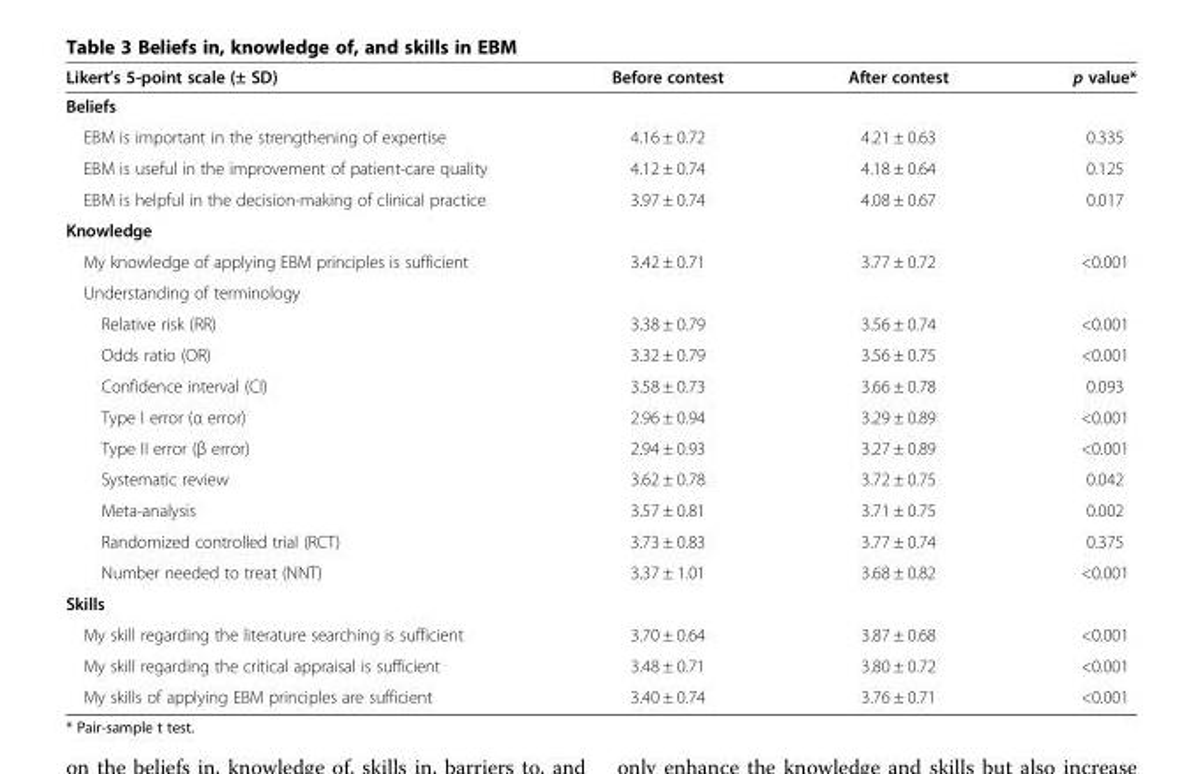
<table><thead><tr><td>Likert’s 5-point scale (± SD)</td><td>Before contest</td><td>After contest</td><td>p value*</td></tr></thead><tbody><tr><td colspan="4">Beliefs</td></tr><tr><td>EBM is important in the strengthening of expertise</td><td>4.16 ± 0.72</td><td>4.21 ± 0.63</td><td>0.335</td></tr><tr><td>EBM is useful in the improvement of patient-care quality</td><td>4.12 ± 0.74</td><td>4.18 ± 0.64</td><td>0.125</td></tr><tr><td>EBM is helpful in the decision-making of clinical practice</td><td>3.97 ± 0.74</td><td>4.08 ± 0.67</td><td>0.017</td></tr><tr><td colspan="4">Knowledge</td></tr><tr><td>My knowledge of applying EBM principles is sufficient</td><td>3.42 ± 0.71</td><td>3.77 ± 0.72</td><td>&lt;0.001</td></tr><tr><td colspan="4">Understanding of terminology</td></tr><tr><td>Relative risk (RR)</td><td>3.38 ± 0.79</td><td>3.56 ± 0.74</td><td>&lt;0.001</td></tr><tr><td>Odds ratio (OR)</td><td>3.32 ± 0.79</td><td>3.56 ± 0.75</td><td>&lt;0.001</td></tr><tr><td>Confidence interval (CI)</td><td>3.58 ± 0.73</td><td>3.66 ± 0.78</td><td>0.093</td></tr><tr><td>Type I error (α error)</td><td>2.96 ± 0.94</td><td>3.29 ± 0.89</td><td>&lt;0.001</td></tr><tr><td>Type II error (β error)</td><td>2.94 ± 0.93</td><td>3.27 ± 0.89</td><td>&lt;0.001</td></tr><tr><td>Systematic review</td><td>3.62 ± 0.78</td><td>3.72 ± 0.75</td><td>0.042</td></tr><tr><td>Meta-analysis</td><td>3.57 ± 0.81</td><td>3.71 ± 0.75</td><td>0.002</td></tr><tr><td>Randomized controlled trial (RCT)</td><td>3.73 ± 0.83</td><td>3.77 ± 0.74</td><td>0.375</td></tr><tr><td>Number needed to treat (NNT)</td><td>3.37 ± 1.01</td><td>3.68 ± 0.82</td><td>&lt;0.001</td></tr><tr><td colspan="4">Skills</td></tr><tr><td>My skill regarding the literature searching is sufficient</td><td>3.70 ± 0.64</td><td>3.87 ± 0.68</td><td>&lt;0.001</td></tr><tr><td>My skill regarding the critical appraisal is sufficient</td><td>3.48 ± 0.71</td><td>3.80 ± 0.72</td><td>&lt;0.001</td></tr><tr><td>My skills of applying EBM principles are sufficient</td><td>3.40 ± 0.74</td><td>3.76 ± 0.71</td><td>&lt;0.001</td></tr></tbody></table>